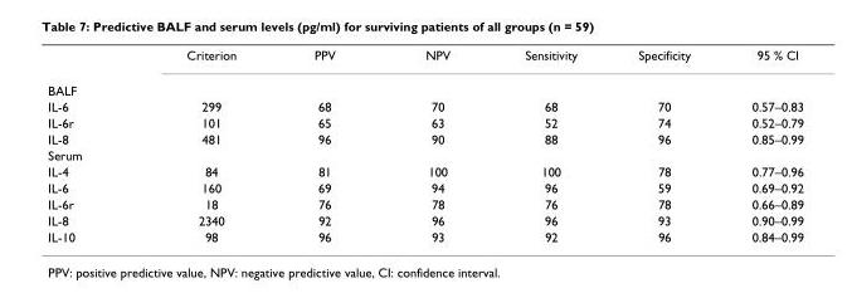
<table><thead><tr><td></td><td>Criterion</td><td>PPV</td><td>NPV</td><td>Sensitivity</td><td>Specificity</td><td>95 % CI</td></tr></thead><tbody><tr><td colspan="7">BALF</td></tr><tr><td>IL-6</td><td>299</td><td>68</td><td>70</td><td>68</td><td>70</td><td>0.57–0.83</td></tr><tr><td>IL-6r</td><td>101</td><td>65</td><td>63</td><td>52</td><td>74</td><td>0.52–0.79</td></tr><tr><td>IL-8</td><td>481</td><td>96</td><td>90</td><td>88</td><td>96</td><td>0.85–0.99</td></tr><tr><td colspan="7">Serum</td></tr><tr><td>IL-4</td><td>84</td><td>81</td><td>100</td><td>100</td><td>78</td><td>0.77–0.96</td></tr><tr><td>IL-6</td><td>160</td><td>69</td><td>94</td><td>96</td><td>59</td><td>0.69–0.92</td></tr><tr><td>IL-6r</td><td>18</td><td>76</td><td>78</td><td>76</td><td>78</td><td>0.66–0.89</td></tr><tr><td>IL-8</td><td>2340</td><td>92</td><td>96</td><td>96</td><td>93</td><td>0.90–0.99</td></tr><tr><td>IL-10</td><td>98</td><td>96</td><td>93</td><td>92</td><td>96</td><td>0.84–0.99</td></tr></tbody></table>